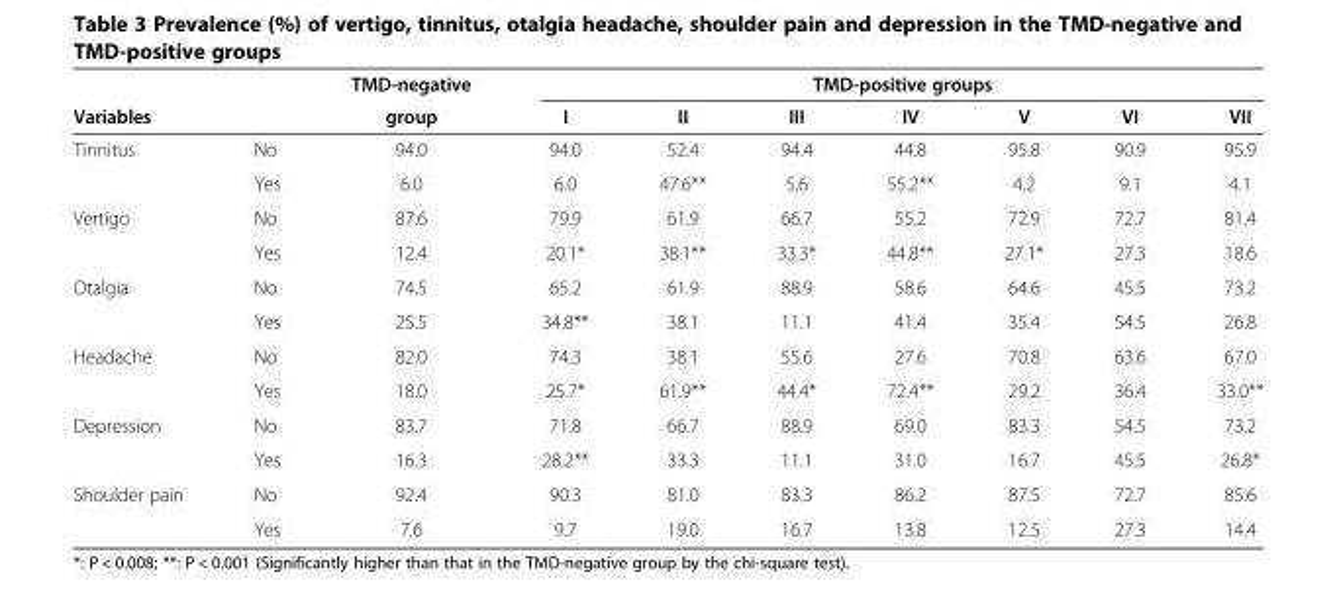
<table><thead><tr><td rowspan="2">Variables</td><td rowspan="2"></td><td rowspan="2">TMD-negative group</td><td colspan="7">TMD-positive groups</td></tr><tr><td>I</td><td>II</td><td>III</td><td>IV</td><td>V</td><td>VI</td><td>VII</td></tr></thead><tbody><tr><td rowspan="2">Tinnitus</td><td>No</td><td>94.0</td><td>94.0</td><td>52.4</td><td>94.4</td><td>44.8</td><td>95.8</td><td>90.9</td><td>95.9</td></tr><tr><td>Yes</td><td>6.0</td><td>6.0</td><td>47.6**</td><td>5.6</td><td>55.2**</td><td>4.2</td><td>9.1</td><td>4.1</td></tr><tr><td rowspan="2">Vertigo</td><td>No</td><td>87.6</td><td>79.9</td><td>61.9</td><td>66.7</td><td>55.2</td><td>72.9</td><td>72.7</td><td>81.4</td></tr><tr><td>Yes</td><td>12.4</td><td>20.1*</td><td>38.1**</td><td>33.3*</td><td>44.8**</td><td>27.1*</td><td>27.3</td><td>18.6</td></tr><tr><td rowspan="2">Otalgia</td><td>No</td><td>74.5</td><td>65.2</td><td>61.9</td><td>88.9</td><td>58.6</td><td>64.6</td><td>45.5</td><td>73.2</td></tr><tr><td>Yes</td><td>25.5</td><td>34.8**</td><td>38.1</td><td>11.1</td><td>41.4</td><td>35.4</td><td>54.5</td><td>26.8</td></tr><tr><td rowspan="2">Headache</td><td>No</td><td>82.0</td><td>74.3</td><td>38.1</td><td>55.6</td><td>27.6</td><td>70.8</td><td>63.6</td><td>67.0</td></tr><tr><td>Yes</td><td>18.0</td><td>25.7*</td><td>61.9**</td><td>44.4*</td><td>72.4**</td><td>29.2</td><td>36.4</td><td>33.0**</td></tr><tr><td rowspan="2">Depression</td><td>No</td><td>83.7</td><td>71.8</td><td>66.7</td><td>88.9</td><td>69.0</td><td>83.3</td><td>54.5</td><td>73.2</td></tr><tr><td>Yes</td><td>16.3</td><td>28.2**</td><td>33.3</td><td>11.1</td><td>31.0</td><td>16.7</td><td>45.5</td><td>26.8*</td></tr><tr><td rowspan="2">Shoulder pain</td><td>No</td><td>92.4</td><td>90.3</td><td>81.0</td><td>83.3</td><td>86.2</td><td>87.5</td><td>72.7</td><td>85.6</td></tr><tr><td>Yes</td><td>7.6</td><td>9.7</td><td>19.0</td><td>16.7</td><td>13.8</td><td>12.5</td><td>27.3</td><td>14.4</td></tr></tbody></table>